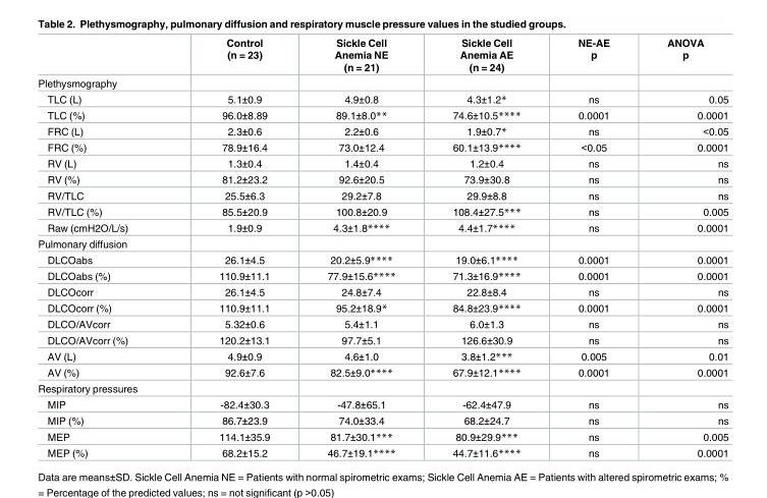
<table><thead><tr><td></td><td>Control (n = 23)</td><td>Sickle Cell Anemia NE (n = 21)</td><td>Sickle Cell Anemia AE (n = 24)</td><td>NE-AE p</td><td>ANOVA p</td></tr></thead><tbody><tr><td colspan="6">Plethysmography</td></tr><tr><td>TLC (L)</td><td>5.1±0.9</td><td>4.9±0.8</td><td>4.3±1.2*</td><td>ns</td><td>0.05</td></tr><tr><td>TLC (%)</td><td>96.0±8.89</td><td>89.1±8.0**</td><td>74.6±10.5****</td><td>0.0001</td><td>0.0001</td></tr><tr><td>FRC (L)</td><td>2.3±0.6</td><td>2.2±0.6</td><td>1.9±0.7*</td><td>ns</td><td>&lt;0.05</td></tr><tr><td>FRC (%)</td><td>78.9±16.4</td><td>73.0±12.4</td><td>60.1±13.9****</td><td>&lt;0.05</td><td>0.0001</td></tr><tr><td>RV (L)</td><td>1.3±0.4</td><td>1.4±0.4</td><td>1.2±0.4</td><td>ns</td><td>ns</td></tr><tr><td>RV (%)</td><td>81.2±23.2</td><td>92.6±20.5</td><td>73.9±30.8</td><td>ns</td><td>ns</td></tr><tr><td>RV/TLC</td><td>25.5±6.3</td><td>29.2±7.8</td><td>29.9±8.8</td><td>ns</td><td>ns</td></tr><tr><td>RV/TLC (%)</td><td>85.5±20.9</td><td>100.8±20.9</td><td>108.4±27.5***</td><td>ns</td><td>0.005</td></tr><tr><td>Raw (cmH2O/L/s)</td><td>1.9±0.9</td><td>4.3±1.8****</td><td>4.4±1.7****</td><td>ns</td><td>0.0001</td></tr><tr><td colspan="6">Pulmonary diffusion</td></tr><tr><td>DLCOabs</td><td>26.1±4.5</td><td>20.2±5.9****</td><td>19.0±6.1****</td><td>0.0001</td><td>0.0001</td></tr><tr><td>DLCOabs (%)</td><td>110.9±11.1</td><td>77.9±15.6****</td><td>71.3±16.9****</td><td>0.0001</td><td>0.0001</td></tr><tr><td>DLCOcorr</td><td>26.1±4.5</td><td>24.8±7.4</td><td>22.8±8.4</td><td>ns</td><td>ns</td></tr><tr><td>DLCOcorr (%)</td><td>110.9±11.1</td><td>95.2±18.9*</td><td>84.8±23.9****</td><td>0.0001</td><td>0.0001</td></tr><tr><td>DLCO/AVcorr</td><td>5.32±0.6</td><td>5.4±1.1</td><td>6.0±1.3</td><td>ns</td><td>ns</td></tr><tr><td>DLCO/AVcorr (%)</td><td>120.2±13.1</td><td>97.7±5.1</td><td>126.6±30.9</td><td>ns</td><td>ns</td></tr><tr><td>AV (L)</td><td>4.9±0.9</td><td>4.6±1.0</td><td>3.8±1.2***</td><td>0.005</td><td>0.01</td></tr><tr><td>AV (%)</td><td>92.6±7.6</td><td>82.5±9.0****</td><td>67.9±12.1****</td><td>0.0001</td><td>0.0001</td></tr><tr><td colspan="6">Respiratory pressures</td></tr><tr><td>MIP</td><td>-82.4±30.3</td><td>-47.8±65.1</td><td>-62.4±47.9</td><td>ns</td><td>ns</td></tr><tr><td>MIP (%)</td><td>86.7±23.9</td><td>74.0±33.4</td><td>68.2±24.7</td><td>ns</td><td>ns</td></tr><tr><td>MEP</td><td>114.1±35.9</td><td>81.7±30.1***</td><td>80.9±29.9***</td><td>ns</td><td>0.005</td></tr><tr><td>MEP (%)</td><td>68.2±15.2</td><td>46.7±19.1****</td><td>44.7±11.6****</td><td>ns</td><td>0.0001</td></tr></tbody></table>